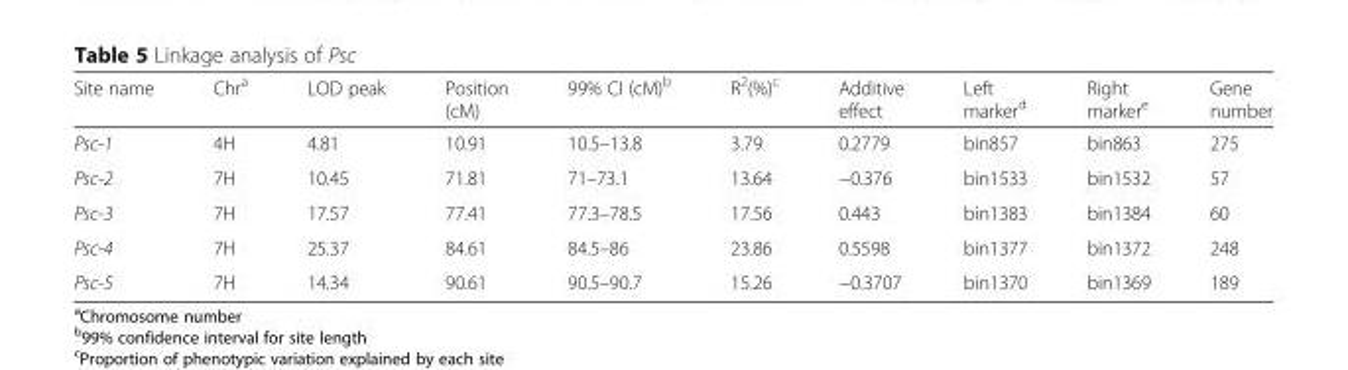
<table><thead><tr><td>Site name</td><td>Chr<sup>a</sup></td><td>LOD peak</td><td>Position (cM)</td><td>99% CI (cM)<sup>b</sup></td><td>R<sup>2</sup>(%)<sup>c</sup></td><td>Additive effect</td><td>Left marker<sup>d</sup></td><td>Right marker<sup>e</sup></td><td>Gene number</td></tr></thead><tbody><tr><td>Psc-1</td><td>4H</td><td>4.81</td><td>10.91</td><td>10.5–13.8</td><td>3.79</td><td>0.2779</td><td>bin857</td><td>bin863</td><td>275</td></tr><tr><td>Psc-2</td><td>7H</td><td>10.45</td><td>71.81</td><td>71–73.1</td><td>13.64</td><td>−0.376</td><td>bin1533</td><td>bin1532</td><td>57</td></tr><tr><td>Psc-3</td><td>7H</td><td>17.57</td><td>77.41</td><td>77.3–78.5</td><td>17.56</td><td>0.443</td><td>bin1383</td><td>bin1384</td><td>60</td></tr><tr><td>Psc-4</td><td>7H</td><td>25.37</td><td>84.61</td><td>84.5–86</td><td>23.86</td><td>0.5598</td><td>bin1377</td><td>bin1372</td><td>248</td></tr><tr><td>Psc-5</td><td>7H</td><td>14.34</td><td>90.61</td><td>90.5–90.7</td><td>15.26</td><td>−0.3707</td><td>bin1370</td><td>bin1369</td><td>189</td></tr></tbody></table>